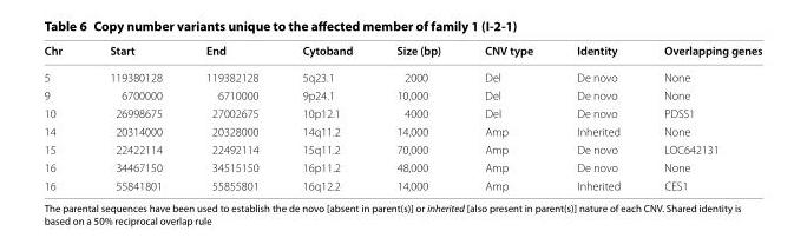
<table><thead><tr><td>Chr</td><td>Start</td><td>End</td><td>Cytoband</td><td>Size (bp)</td><td>CNV type</td><td>Identity</td><td>Overlapping genes</td></tr></thead><tbody><tr><td>5</td><td>119380128</td><td>119382128</td><td>5q23.1</td><td>2000</td><td>Del</td><td>De novo</td><td>None</td></tr><tr><td>9</td><td>6700000</td><td>6710000</td><td>9p24.1</td><td>10,000</td><td>Del</td><td>De novo</td><td>None</td></tr><tr><td>10</td><td>26998675</td><td>27002675</td><td>10p12.1</td><td>4000</td><td>Del</td><td>De novo</td><td>PDSS1</td></tr><tr><td>14</td><td>20314000</td><td>20328000</td><td>14q11.2</td><td>14,000</td><td>Amp</td><td>Inherited</td><td>None</td></tr><tr><td>15</td><td>22422114</td><td>22492114</td><td>15q11.2</td><td>70,000</td><td>Amp</td><td>De novo</td><td>LOC642131</td></tr><tr><td>16</td><td>34467150</td><td>34515150</td><td>16p11.2</td><td>48,000</td><td>Amp</td><td>De novo</td><td>None</td></tr><tr><td>16</td><td>55841801</td><td>55855801</td><td>16q12.2</td><td>14,000</td><td>Amp</td><td>Inherited</td><td>CES1</td></tr></tbody></table>